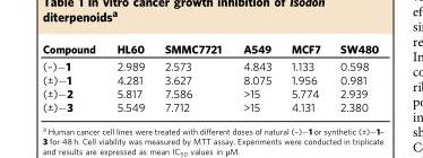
<table><thead><tr><td>Compound</td><td>HL60</td><td>SMMC7721</td><td>A549</td><td>MCF7</td><td>SW480</td></tr></thead><tbody><tr><td>(–)−1</td><td>2.989</td><td>2.573</td><td>4.843</td><td>1.133</td><td>0.598</td></tr><tr><td>(±)−1</td><td>4.281</td><td>3.627</td><td>8.075</td><td>1.956</td><td>0.981</td></tr><tr><td>(±)−2</td><td>5.817</td><td>7.586</td><td>&gt;15</td><td>5.774</td><td>2.939</td></tr><tr><td>(±)−3</td><td>5.549</td><td>7.712</td><td>&gt;15</td><td>4.131</td><td>2.380</td></tr></tbody></table>